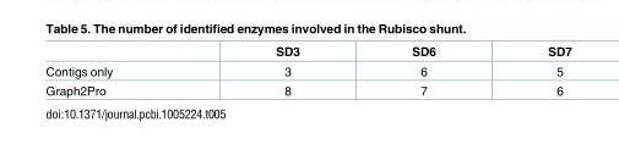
<table><thead><tr><td></td><td>SD3</td><td>SD6</td><td>SD7</td></tr></thead><tbody><tr><td>Contigs only</td><td>3</td><td>6</td><td>5</td></tr><tr><td>Graph2Pro</td><td>8</td><td>7</td><td>6</td></tr></tbody></table>